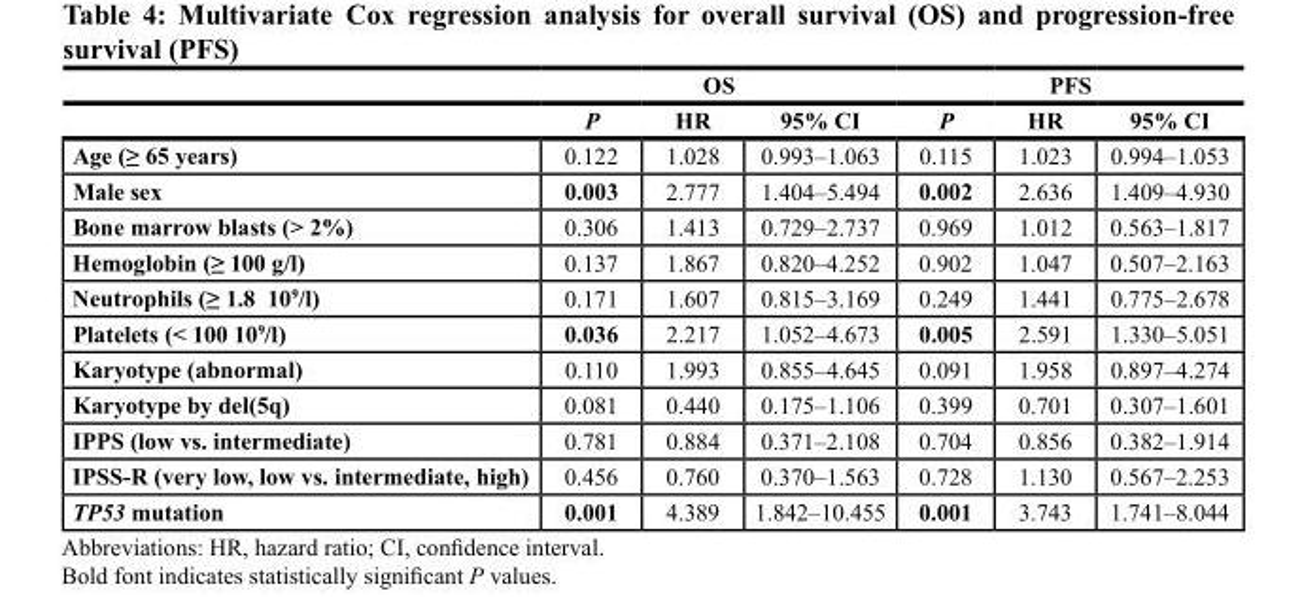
<table><thead><tr><td rowspan="2"></td><td colspan="3">os</td><td colspan="3">PFs</td></tr><tr><td>P</td><td>Hr</td><td>95% CI</td><td>P</td><td>Hr</td><td>95% CI</td></tr></thead><tbody><tr><td>Age (≥ 65 years)</td><td>0.122</td><td>1.028</td><td>0.993–1.063</td><td>0.115</td><td>1.023</td><td>0.994–1.053</td></tr><tr><td>Male sex</td><td>0.003</td><td>2.777</td><td>1.404–5.494</td><td>0.002</td><td>2.636</td><td>1.409–4.930</td></tr><tr><td>Bone marrow blasts (&gt; 2%)</td><td>0.306</td><td>1.413</td><td>0.729–2.737</td><td>0.969</td><td>1.012</td><td>0.563–1.817</td></tr><tr><td>Hemoglobin (≥ 100 g/l)</td><td>0.137</td><td>1.867</td><td>0.820–4.252</td><td>0.902</td><td>1.047</td><td>0.507–2.163</td></tr><tr><td>Neutrophils (≥ 1.8 10<sup>9</sup>/l)</td><td>0.171</td><td>1.607</td><td>0.815–3.169</td><td>0.249</td><td>1.441</td><td>0.775–2.678</td></tr><tr><td>Platelets (&lt; 100 10<sup>9</sup>/l)</td><td>0.036</td><td>2.217</td><td>1.052–4.673</td><td>0.005</td><td>2.591</td><td>1.330–5.051</td></tr><tr><td>Karyotype (abnormal)</td><td>0.110</td><td>1.993</td><td>0.855–4.645</td><td>0.091</td><td>1.958</td><td>0.897–4.274</td></tr><tr><td>Karyotype by del(5q)</td><td>0.081</td><td>0.440</td><td>0.175–1.106</td><td>0.399</td><td>0.701</td><td>0.307–1.601</td></tr><tr><td>IPPS (low vs. intermediate)</td><td>0.781</td><td>0.884</td><td>0.371–2.108</td><td>0.704</td><td>0.856</td><td>0.382–1.914</td></tr><tr><td>IPSS-R (very low, low vs. intermediate, high)</td><td>0.456</td><td>0.760</td><td>0.370–1.563</td><td>0.728</td><td>1.130</td><td>0.567–2.253</td></tr><tr><td>TP53 mutation</td><td>0.001</td><td>4.389</td><td>1.842–10.455</td><td>0.001</td><td>3.743</td><td>1.741–8.044</td></tr></tbody></table>